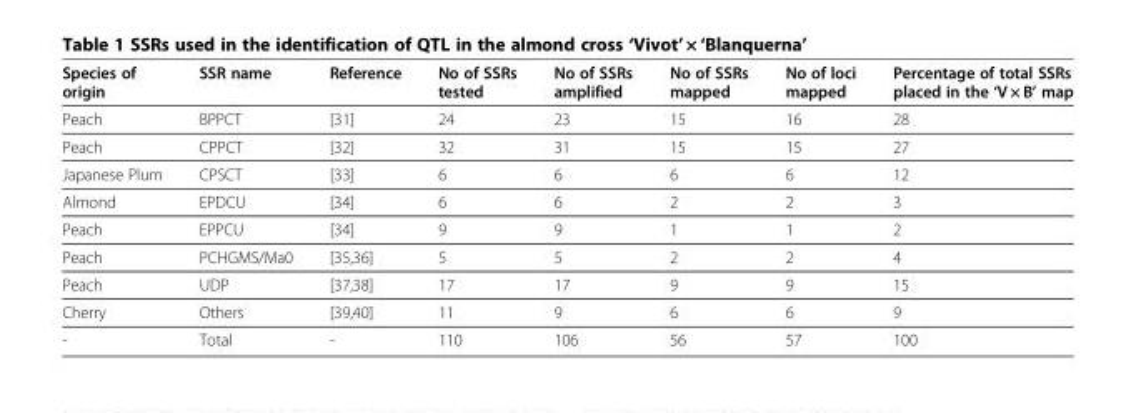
<table><thead><tr><td>Species of origin</td><td>SSR name</td><td>Reference</td><td>No of SSRs tested</td><td>No of SSRs amplified</td><td>No of SSRs mapped</td><td>No of loci mapped</td><td>Percentage of total SSRs placed in the ‘V × B’ map</td></tr></thead><tbody><tr><td>Peach</td><td>BPPCT</td><td>[31]</td><td>24</td><td>23</td><td>15</td><td>16</td><td>28</td></tr><tr><td>Peach</td><td>CPPCT</td><td>[32]</td><td>32</td><td>31</td><td>15</td><td>15</td><td>27</td></tr><tr><td>Japanese Plum</td><td>CPSCT</td><td>[33]</td><td>6</td><td>6</td><td>6</td><td>6</td><td>12</td></tr><tr><td>Almond</td><td>EPDCU</td><td>[34]</td><td>6</td><td>6</td><td>2</td><td>2</td><td>3</td></tr><tr><td>Peach</td><td>EPPCU</td><td>[34]</td><td>9</td><td>9</td><td>1</td><td>1</td><td>2</td></tr><tr><td>Peach</td><td>PCHGMS/Ma0</td><td>[35,36]</td><td>5</td><td>5</td><td>2</td><td>2</td><td>4</td></tr><tr><td>Peach</td><td>UDP</td><td>[37,38]</td><td>17</td><td>17</td><td>9</td><td>9</td><td>15</td></tr><tr><td>Cherry</td><td>Others</td><td>[39,40]</td><td>11</td><td>9</td><td>6</td><td>6</td><td>9</td></tr><tr><td>-</td><td>Total</td><td>-</td><td>110</td><td>106</td><td>56</td><td>57</td><td>100</td></tr></tbody></table>